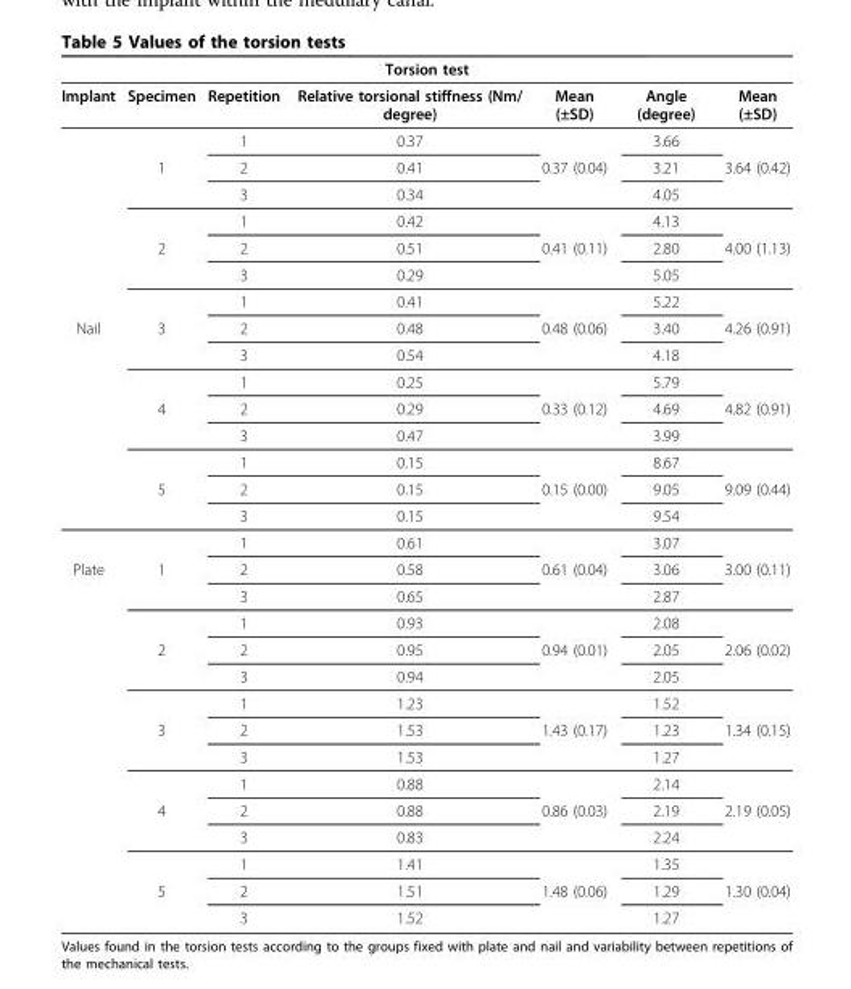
<table><thead><tr><td colspan="7">Torsion test</td></tr><tr><td>Implant</td><td>Specimen</td><td>Repetition</td><td>Relative torsional stiffness (Nm/ degree)</td><td>Mean (±SD)</td><td>Angle (degree)</td><td>Mean (±SD)</td></tr></thead><tbody><tr><td></td><td></td><td>1</td><td>0.37</td><td></td><td>3.66</td><td></td></tr><tr><td></td><td>1</td><td>2</td><td>0.41</td><td>0.37 (0.04)</td><td>3.21</td><td>3.64 (0.42)</td></tr><tr><td></td><td></td><td>3</td><td>0.34</td><td></td><td>4.05</td><td></td></tr><tr><td></td><td></td><td>1</td><td>0.42</td><td></td><td>4.13</td><td></td></tr><tr><td></td><td>2</td><td>2</td><td>0.51</td><td>0.41 (0.11)</td><td>2.80</td><td>4.00 (1.13)</td></tr><tr><td></td><td></td><td>3</td><td>0.29</td><td></td><td>5.05</td><td></td></tr><tr><td></td><td></td><td>1</td><td>0.41</td><td></td><td>5.22</td><td></td></tr><tr><td rowspan="9">Nail</td><td>3</td><td>2</td><td>0.48</td><td>0.48 (0.06)</td><td>3.40</td><td>4.26 (0.91)</td></tr><tr><td></td><td>3</td><td>0.54</td><td></td><td>4.18</td><td></td></tr><tr><td></td><td>1</td><td>0.25</td><td></td><td>5.79</td><td></td></tr><tr><td>4</td><td>2</td><td>0.29</td><td>0.33 (0.12)</td><td>4.69</td><td>4.82 (0.91)</td></tr><tr><td></td><td>3</td><td>0.47</td><td></td><td>3.99</td><td></td></tr><tr><td></td><td>1</td><td>0.15</td><td></td><td>8.67</td><td></td></tr><tr><td>5</td><td>2</td><td>0.15</td><td>0.15 (0.00)</td><td>9.05</td><td>9.09 (0.44)</td></tr><tr><td></td><td>3</td><td>0.15</td><td></td><td>9.54</td><td></td></tr><tr><td></td><td>1</td><td>0.61</td><td></td><td>3.07</td><td></td></tr><tr><td rowspan="14">Plate</td><td>1</td><td>2</td><td>0.58</td><td>0.61 (0.04)</td><td>3.06</td><td>3.00 (0.11)</td></tr><tr><td></td><td>3</td><td>0.65</td><td></td><td>2.87</td><td></td></tr><tr><td></td><td>1</td><td>0.93</td><td></td><td>2.08</td><td></td></tr><tr><td>2</td><td>2</td><td>0.95</td><td>0.94 (0.01)</td><td>2.05</td><td>2.06 (0.02)</td></tr><tr><td></td><td>3</td><td>0.94</td><td></td><td>2.05</td><td></td></tr><tr><td></td><td>1</td><td>1.23</td><td></td><td>1.52</td><td></td></tr><tr><td>3</td><td>2</td><td>1.53</td><td>1.43 (0.17)</td><td>1.23</td><td>1.34 (0.15)</td></tr><tr><td></td><td>3</td><td>1.53</td><td></td><td>1.27</td><td></td></tr><tr><td></td><td>1</td><td>0.88</td><td></td><td>2.14</td><td></td></tr><tr><td>4</td><td>2</td><td>0.88</td><td>0.86 (0.03)</td><td>2.19</td><td>2.19 (0.05)</td></tr><tr><td></td><td>3</td><td>0.83</td><td></td><td>2.24</td><td></td></tr><tr><td></td><td>1</td><td>1.41</td><td></td><td>1.35</td><td></td></tr><tr><td>5</td><td>2</td><td>1.51</td><td>1.48 (0.06)</td><td>1.29</td><td>1.30 (0.04)</td></tr><tr><td></td><td>3</td><td>1.52</td><td></td><td>1.27</td><td></td></tr></tbody></table>